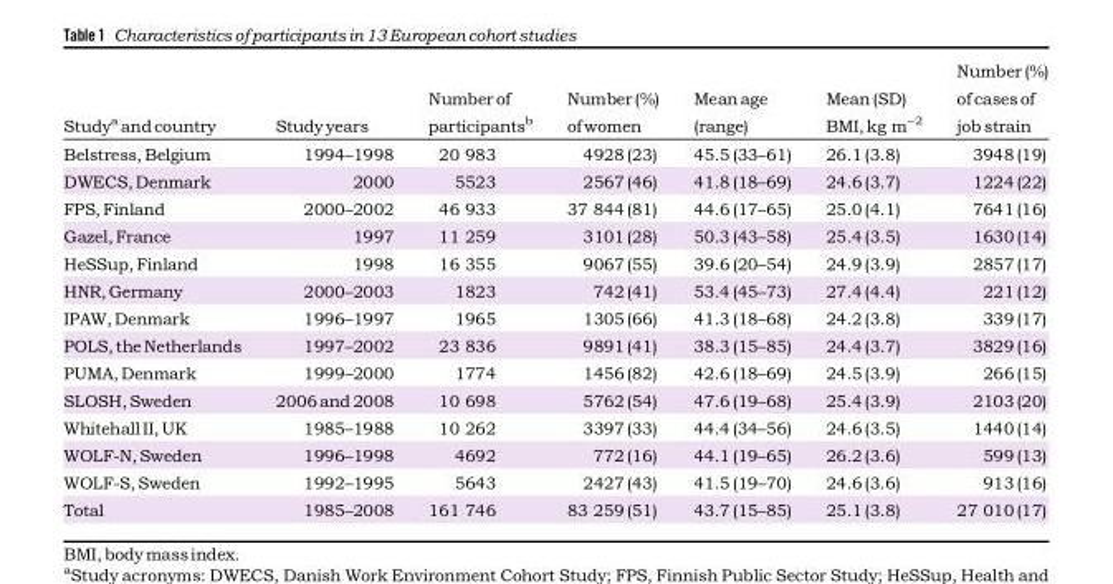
<table><thead><tr><td>Study<sup>a</sup>andcountry</td><td>Studyyears</td><td>Number of participants<sup>b</sup></td><td>Number(%) ofwomen</td><td>Meanage (range)</td><td>Mean(SD) BMI,kg m<sup>−2</sup></td><td>Number(%) ofcasesof jobstrain</td></tr></thead><tbody><tr><td>Belstress,Belgium</td><td>1994–1998</td><td>20 983</td><td>4928(23)</td><td>45.5(33–61)</td><td>26.1(3.8)</td><td>3948(19)</td></tr><tr><td>DWECS,Denmark</td><td>2000</td><td>5523</td><td>2567(46)</td><td>41.8(18–69)</td><td>24.6(3.7)</td><td>1224(22)</td></tr><tr><td>FPS,Finland</td><td>2000–2002</td><td>46 933</td><td>37 844(81)</td><td>44.6(17–65)</td><td>25.0(4.1)</td><td>7641(16)</td></tr><tr><td>Gazel,France</td><td>1997</td><td>11 259</td><td>3101(28)</td><td>50.3(43–58)</td><td>25.4(3.5)</td><td>1630(14)</td></tr><tr><td>HeSSup,Finland</td><td>1998</td><td>16 355</td><td>9067(55)</td><td>39.6(20–54)</td><td>24.9(3.9)</td><td>2857(17)</td></tr><tr><td>HNR,Germany</td><td>2000–2003</td><td>1823</td><td>742(41)</td><td>53.4(45–73)</td><td>27.4(4.4)</td><td>221(12)</td></tr><tr><td>IPAW,Denmark</td><td>1996–1997</td><td>1965</td><td>1305(66)</td><td>41.3(18–68)</td><td>24.2(3.8)</td><td>339(17)</td></tr><tr><td>POLS,theNetherlands</td><td>1997–2002</td><td>23 836</td><td>9891(41)</td><td>38.3(15–85)</td><td>24.4(3.7)</td><td>3829(16)</td></tr><tr><td>PUMA,Denmark</td><td>1999–2000</td><td>1774</td><td>1456(82)</td><td>42.6(18–69)</td><td>24.5(3.9)</td><td>266(15)</td></tr><tr><td>SLOSH,Sweden</td><td>2006and 2008</td><td>10 698</td><td>5762(54)</td><td>47.6(19–68)</td><td>25.4(3.9)</td><td>2103(20)</td></tr><tr><td>WhitehallII,UK</td><td>1985–1988</td><td>10 262</td><td>3397(33)</td><td>44.4(34–56)</td><td>24.6(3.5)</td><td>1440(14)</td></tr><tr><td>WOLF-N,Sweden</td><td>1996–1998</td><td>4692</td><td>772(16)</td><td>44.1(19–65)</td><td>26.2(3.6)</td><td>599(13)</td></tr><tr><td>WOLF-S,Sweden</td><td>1992–1995</td><td>5643</td><td>2427(43)</td><td>41.5(19–70)</td><td>24.6(3.6)</td><td>913(16)</td></tr><tr><td>Total</td><td>1985–2008</td><td>161 746</td><td>83 259(51)</td><td>43.7(15–85)</td><td>25.1(3.8)</td><td>27 010(17)</td></tr></tbody></table>